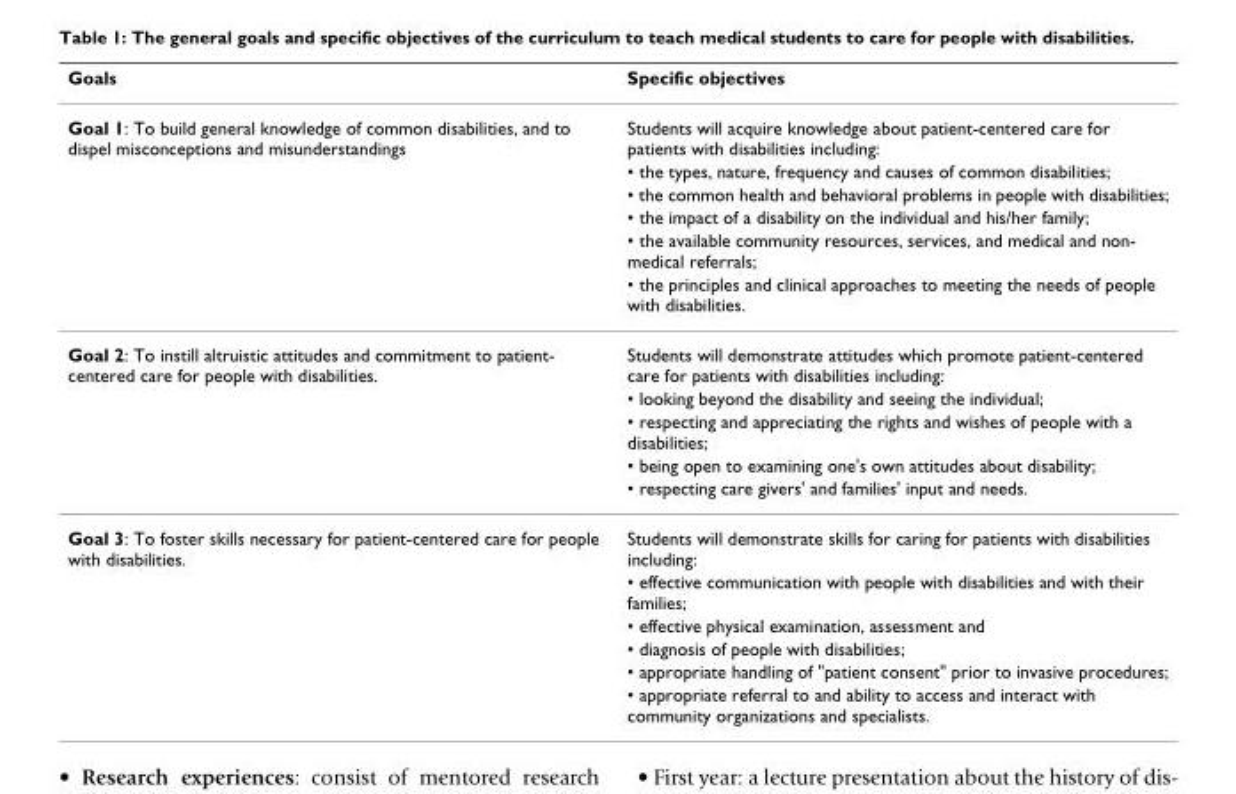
<table><thead><tr><td>Goals</td><td>Specific objectives</td></tr></thead><tbody><tr><td rowspan="6">Goal 1: To build general knowledge of common disabilities, and to dispel misconceptions and misunderstandings</td><td>Students will acquire knowledge about patient-centered care for patients with disabilities including:</td></tr><tr><td>• the types, nature, frequency and causes of common disabilities;</td></tr><tr><td>• the common health and behavioral problems in people with disabilities;</td></tr><tr><td>• the impact of a disability on the individual and his/her family;</td></tr><tr><td>• the available community resources, services, and medical and non- medical referrals;</td></tr><tr><td>• the principles and clinical approaches to meeting the needs of people with disabilities.</td></tr><tr><td rowspan="5">Goal 2: To instill altruistic attitudes and commitment to patient- centered care for people with disabilities.</td><td>Students will demonstrate attitudes which promote patient-centered care for patients with disabilities including:</td></tr><tr><td>• looking beyond the disability and seeing the individual;</td></tr><tr><td>• respecting and appreciating the rights and wishes of people with a disabilities;</td></tr><tr><td>• being open to examining one&#x27;s own attitudes about disability;</td></tr><tr><td>• respecting care givers&#x27; and families&#x27; input and needs.</td></tr><tr><td rowspan="6">Goal 3: To foster skills necessary for patient-centered care for people with disabilities.</td><td>Students will demonstrate skills for caring for patients with disabilities including:</td></tr><tr><td>• effective communication with people with disabilities and with their families;</td></tr><tr><td>• effective physical examination, assessment and</td></tr><tr><td>• diagnosis of people with disabilities;</td></tr><tr><td>• appropriate handling of &quot;patient consent&quot; prior to invasive procedures;</td></tr><tr><td>• appropriate referral to and ability to access and interact with community organizations and specialists.</td></tr></tbody></table>